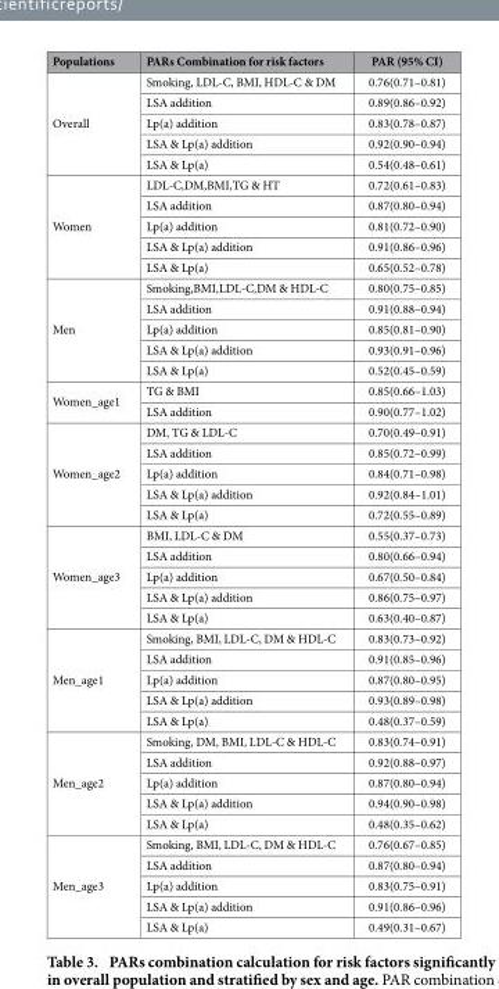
<table><thead><tr><td>Populations</td><td>PARs Combination for risk factors</td><td>PAR (95% CI)</td></tr></thead><tbody><tr><td rowspan="5">Overall</td><td>Smoking, LDL-C, BMI, HDL-C &amp; DM</td><td>0.76(0.71–0.81)</td></tr><tr><td>LSA addition</td><td>0.89(0.86–0.92)</td></tr><tr><td>Lp(a) addition</td><td>0.83(0.78–0.87)</td></tr><tr><td>LSA &amp; Lp(a) addition</td><td>0.92(0.90–0.94)</td></tr><tr><td>LSA &amp; Lp(a)</td><td>0.54(0.48–0.61)</td></tr><tr><td rowspan="5">Women</td><td>LDL-C,DM,BMI,TG &amp; HT</td><td>0.72(0.61–0.83)</td></tr><tr><td>LSA addition</td><td>0.87(0.80–0.94)</td></tr><tr><td>Lp(a) addition</td><td>0.81(0.72–0.90)</td></tr><tr><td>LSA &amp; Lp(a) addition</td><td>0.91(0.86–0.96)</td></tr><tr><td>LSA &amp; Lp(a)</td><td>0.65(0.52–0.78)</td></tr><tr><td rowspan="5">Men</td><td>Smoking,BMI,LDL-C,DM &amp; HDL-C</td><td>0.80(0.75–0.85)</td></tr><tr><td>LSA addition</td><td>0.91(0.88–0.94)</td></tr><tr><td>Lp(a) addition</td><td>0.85(0.81–0.90)</td></tr><tr><td>LSA &amp; Lp(a) addition</td><td>0.93(0.91–0.96)</td></tr><tr><td>LSA &amp; Lp(a)</td><td>0.52(0.45–0.59)</td></tr><tr><td rowspan="2">Women_age1</td><td>TG &amp; BMI</td><td>0.85(0.66–1.03)</td></tr><tr><td>LSA addition</td><td>0.90(0.77–1.02)</td></tr><tr><td rowspan="5">Women_age2</td><td>DM, TG &amp; LDL-C</td><td>0.70(0.49–0.91)</td></tr><tr><td>LSA addition</td><td>0.85(0.72–0.99)</td></tr><tr><td>Lp(a) addition</td><td>0.84(0.71–0.98)</td></tr><tr><td>LSA &amp; Lp(a) addition</td><td>0.92(0.84–1.01)</td></tr><tr><td>LSA &amp; Lp(a)</td><td>0.72(0.55–0.89)</td></tr><tr><td rowspan="5">Women_age3</td><td>BMI, LDL-C &amp; DM</td><td>0.55(0.37–0.73)</td></tr><tr><td>LSA addition</td><td>0.80(0.66–0.94)</td></tr><tr><td>Lp(a) addition</td><td>0.67(0.50–0.84)</td></tr><tr><td>LSA &amp; Lp(a) addition</td><td>0.86(0.75–0.97)</td></tr><tr><td>LSA &amp; Lp(a)</td><td>0.63(0.40–0.87)</td></tr><tr><td rowspan="5">Men_age1</td><td>Smoking, BMI, LDL-C, DM &amp; HDL-C</td><td>0.83(0.73–0.92)</td></tr><tr><td>LSA addition</td><td>0.91(0.85–0.96)</td></tr><tr><td>Lp(a) addition</td><td>0.87(0.80–0.95)</td></tr><tr><td>LSA &amp; Lp(a) addition</td><td>0.93(0.89–0.98)</td></tr><tr><td>LSA &amp; Lp(a)</td><td>0.48(0.37–0.59)</td></tr><tr><td rowspan="5">Men_age2</td><td>Smoking, DM, BMI, LDL-C &amp; HDL-C</td><td>0.83(0.74–0.91)</td></tr><tr><td>LSA addition</td><td>0.92(0.88–0.97)</td></tr><tr><td>Lp(a) addition</td><td>0.87(0.80–0.94)</td></tr><tr><td>LSA &amp; Lp(a) addition</td><td>0.94(0.90–0.98)</td></tr><tr><td>LSA &amp; Lp(a)</td><td>0.48(0.35–0.62)</td></tr><tr><td rowspan="5">Men_age3</td><td>Smoking, BMI, LDL-C, DM &amp; HDL-C</td><td>0.76(0.67–0.85)</td></tr><tr><td>LSA addition</td><td>0.87(0.80–0.94)</td></tr><tr><td>Lp(a) addition</td><td>0.83(0.75–0.91)</td></tr><tr><td>LSA &amp; Lp(a) addition</td><td>0.91(0.86–0.96)</td></tr><tr><td>LSA &amp; Lp(a)</td><td>0.49(0.31–0.67)</td></tr></tbody></table>